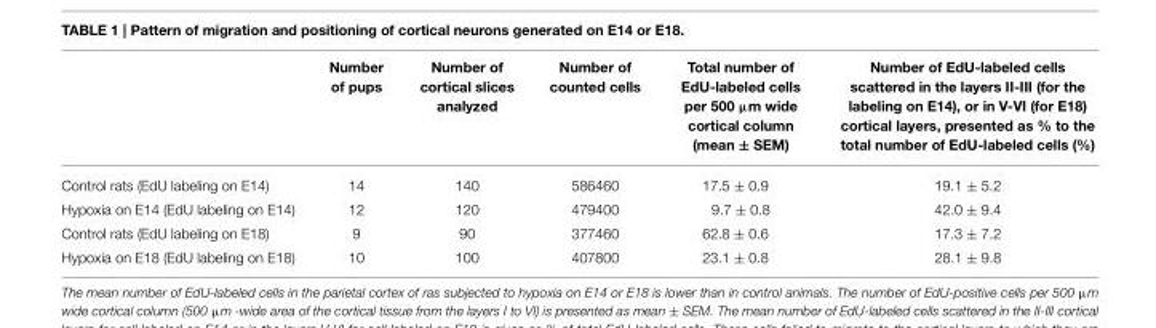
<table><thead><tr><td></td><td>Number of pups</td><td>Number of cortical slices analyzed</td><td>Number of counted cells</td><td>Total number of EdU-labeled cells per 500 µm wide cortical column (mean ± SEM)</td><td>Number of EdU-labeled cells scattered in the layers II-III (for the labeling on E14), or in V-VI (for E18) cortical layers, presented as % to the total number of EdU-labeled cells (%)</td></tr></thead><tbody><tr><td>Control rats (EdU labeling on E14)</td><td>14</td><td>140</td><td>586460</td><td>17.5 ± 0.9</td><td>19.1 ± 5.2</td></tr><tr><td>Hypoxia on E14 (EdU labeling on E14)</td><td>12</td><td>120</td><td>479400</td><td>9.7 ± 0.8</td><td>42.0 ± 9.4</td></tr><tr><td>Control rats (EdU labeling on E18)</td><td>9</td><td>90</td><td>377460</td><td>62.8 ± 0.6</td><td>17.3 ± 7.2</td></tr><tr><td>Hypoxia on E18 (EdU labeling on E18)</td><td>10</td><td>100</td><td>407800</td><td>23.1 ± 0.8</td><td>28.1 ± 9.8</td></tr></tbody></table>